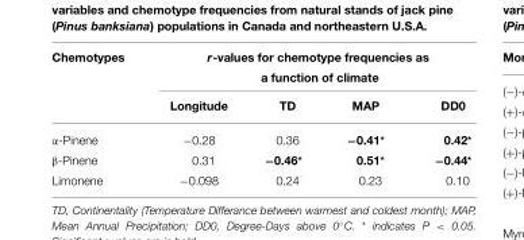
<table><thead><tr><td rowspan="2">Chemotypes</td><td colspan="4">r-values for chemotype frequencies as a function of climate</td></tr><tr><td>Longitude</td><td>TD</td><td>MAP</td><td>DD0</td></tr></thead><tbody><tr><td>α-Pinene</td><td>−0.28</td><td>0.36</td><td>−0.41*</td><td>0.42*</td></tr><tr><td>β-Pinene</td><td>0.31</td><td>−0.46*</td><td>0.51*</td><td>−0.44*</td></tr><tr><td>Limonene</td><td>−0.098</td><td>0.24</td><td>0.23</td><td>0.10</td></tr></tbody></table>